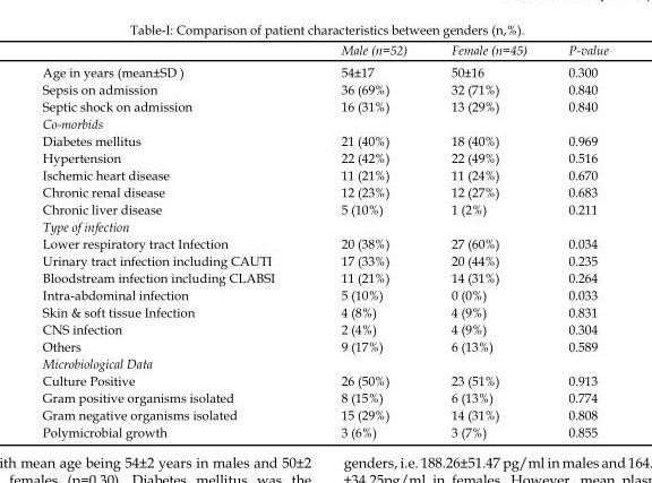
<table><thead><tr><td></td><td>Male (n=52)</td><td>Female (n=45)</td><td>P-value</td></tr></thead><tbody><tr><td>Age in years (mean±SD )</td><td>54±17</td><td>50±16</td><td>0.300</td></tr><tr><td>Sepsis on admission</td><td>36 (69%)</td><td>32 (71%)</td><td>0.840</td></tr><tr><td>Septic shock on admission</td><td>16 (31%)</td><td>13 (29%)</td><td>0.840</td></tr><tr><td colspan="4">Co-morbids</td></tr><tr><td>Diabetes mellitus</td><td>21 (40%)</td><td>18 (40%)</td><td>0.969</td></tr><tr><td>Hypertension</td><td>22 (42%)</td><td>22 (49%)</td><td>0.516</td></tr><tr><td>Ischemic heart disease</td><td>11 (21%)</td><td>11 (24%)</td><td>0.670</td></tr><tr><td>Chronic renal disease</td><td>12 (23%)</td><td>12 (27%)</td><td>0.683</td></tr><tr><td>Chronic liver disease</td><td>5 (10%)</td><td>1 (2%)</td><td>0.211</td></tr><tr><td colspan="4">Type of infection</td></tr><tr><td>Lower respiratory tract Infection</td><td>20 (38%)</td><td>27 (60%)</td><td>0.034</td></tr><tr><td>Urinary tract infection including CAUTI</td><td>17 (33%)</td><td>20 (44%)</td><td>0.235</td></tr><tr><td>Bloodstream infection including CLABSI</td><td>11 (21%)</td><td>14 (31%)</td><td>0.264</td></tr><tr><td>Intra-abdominal infection</td><td>5 (10%)</td><td>0 (0%)</td><td>0.033</td></tr><tr><td>Skin &amp; soft tissue Infection</td><td>4 (8%)</td><td>4 (9%)</td><td>0.831</td></tr><tr><td>CNS infection</td><td>2 (4%)</td><td>4 (9%)</td><td>0.304</td></tr><tr><td>Others</td><td>9 (17%)</td><td>6 (13%)</td><td>0.589</td></tr><tr><td colspan="4">Microbiological Data</td></tr><tr><td>Culture Positive</td><td>26 (50%)</td><td>23 (51%)</td><td>0.913</td></tr><tr><td>Gram positive organisms isolated</td><td>8 (15%)</td><td>6 (13%)</td><td>0.774</td></tr><tr><td>Gram negative organisms isolated</td><td>15 (29%)</td><td>14 (31%)</td><td>0.808</td></tr><tr><td>Polymicrobial growth</td><td>3 (6%)</td><td>3 (7%)</td><td>0.855</td></tr></tbody></table>